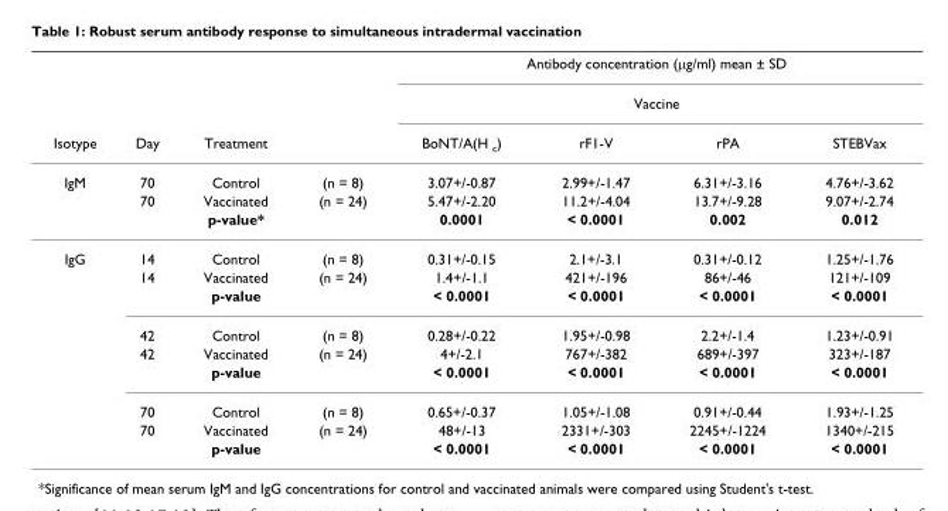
<table><thead><tr><td rowspan="3">Isotype</td><td rowspan="3">Day</td><td rowspan="3">Treatment</td><td rowspan="3"></td><td rowspan="2" colspan="4">Antibody concentration (μg/ml) mean ± SD Vaccine</td></tr><tr></tr><tr><td>BoNT/A(H <sub>c</sub>)</td><td>rF1-V</td><td>rPA</td><td>STEBVax</td></tr></thead><tbody><tr><td rowspan="3">IgM</td><td>70</td><td>Control</td><td>(n = 8)</td><td>3.07+/-0.87</td><td>2.99+/-1.47</td><td>6.31+/-3.16</td><td>4.76+/-3.62</td></tr><tr><td>70</td><td>Vaccinated</td><td>(n = 24)</td><td>5.47+/-2.20</td><td>11.2+/-4.04</td><td>13.7+/-9.28</td><td>9.07+/-2.74</td></tr><tr><td></td><td>p-value*</td><td></td><td>0.0001</td><td>&lt; 0.0001</td><td>0.002</td><td>0.012</td></tr><tr><td rowspan="9">IgG</td><td>14</td><td>Control</td><td>(n = 8)</td><td>0.31+/-0.15</td><td>2.1+/-3.1</td><td>0.31+/-0.12</td><td>1.25+/-1.76</td></tr><tr><td>14</td><td>Vaccinated</td><td>(n = 24)</td><td>1.4+/-1.1</td><td>421+/-196</td><td>86+/-46</td><td>121+/-109</td></tr><tr><td></td><td>p-value</td><td></td><td>&lt; 0.0001</td><td>&lt; 0.0001</td><td>&lt; 0.0001</td><td>&lt; 0.0001</td></tr><tr><td>42</td><td>Control</td><td>(n = 8)</td><td>0.28+/-0.22</td><td>1.95+/-0.98</td><td>2.2+/-1.4</td><td>1.23+/-0.91</td></tr><tr><td>42</td><td>Vaccinated</td><td>(n = 24)</td><td>4+/-2.1</td><td>767+/-382</td><td>689+/-397</td><td>323+/-187</td></tr><tr><td></td><td>p-value</td><td></td><td>&lt; 0.0001</td><td>&lt; 0.0001</td><td>&lt; 0.0001</td><td>&lt; 0.0001</td></tr><tr><td>70</td><td>Control</td><td>(n = 8)</td><td>0.65+/-0.37</td><td>1.05+/-1.08</td><td>0.91+/-0.44</td><td>1.93+/-1.25</td></tr><tr><td>70</td><td>Vaccinated</td><td>(n = 24)</td><td>48+/-13</td><td>2331+/-303</td><td>2245+/-1224</td><td>1340+/-215</td></tr><tr><td></td><td>p-value</td><td></td><td>&lt; 0.0001</td><td>&lt; 0.0001</td><td>&lt; 0.0001</td><td>&lt; 0.0001</td></tr></tbody></table>